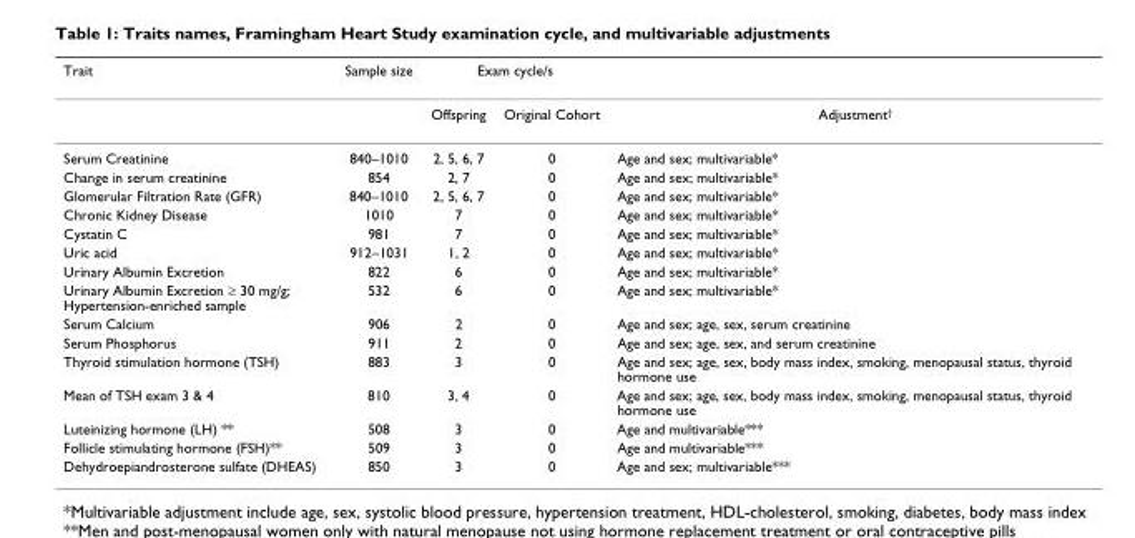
<table><thead><tr><td rowspan="2">Trait</td><td rowspan="2">Sample size</td><td colspan="2">Exam cycle/s</td><td rowspan="2">Adjustment<sup>†</sup></td></tr><tr><td>Offspring</td><td>Original Cohort</td></tr></thead><tbody><tr><td>Serum Creatinine</td><td>840–1010</td><td>2, 5, 6, 7</td><td>0</td><td>Age and sex; multivariable*</td></tr><tr><td>Change in serum creatinine</td><td>854</td><td>2, 7</td><td>0</td><td>Age and sex; multivariable*</td></tr><tr><td>Glomerular Filtration Rate (GFR)</td><td>840–1010</td><td>2, 5, 6, 7</td><td>0</td><td>Age and sex; multivariable*</td></tr><tr><td>Chronic Kidney Disease</td><td>1010</td><td>7</td><td>0</td><td>Age and sex; multivariable*</td></tr><tr><td>Cystatin C</td><td>981</td><td>7</td><td>0</td><td>Age and sex; multivariable*</td></tr><tr><td>Uric acid</td><td>912–1031</td><td>1, 2</td><td>0</td><td>Age and sex; multivariable*</td></tr><tr><td>Urinary Albumin Excretion</td><td>822</td><td>6</td><td>0</td><td>Age and sex; multivariable*</td></tr><tr><td>Urinary Albumin Excretion ≥ 30 mg/g; Hypertension-enriched sample</td><td>532</td><td>6</td><td>0</td><td>Age and sex; multivariable*</td></tr><tr><td>Serum Calcium</td><td>906</td><td>2</td><td>0</td><td>Age and sex; age, sex, serum creatinine</td></tr><tr><td>Serum Phosphorus</td><td>911</td><td>2</td><td>0</td><td>Age and sex; age, sex, and serum creatinine</td></tr><tr><td>Thyroid stimulation hormone (TSH)</td><td>883</td><td>3</td><td>0</td><td>Age and sex; age, sex, body mass index, smoking, menopausal status, thyroid hormone use</td></tr><tr><td>Mean of TSH exam 3 &amp; 4</td><td>810</td><td>3, 4</td><td>0</td><td>Age and sex; age, sex, body mass index, smoking, menopausal status, thyroid hormone use</td></tr><tr><td>Luteinizing hormone (LH) **</td><td>508</td><td>3</td><td>0</td><td>Age and multivariable***</td></tr><tr><td>Follicle stimulating hormone (FSH)**</td><td>509</td><td>3</td><td>0</td><td>Age and multivariable***</td></tr><tr><td>Dehydroepiandrosterone sulfate (DHEAS)</td><td>850</td><td>3</td><td>0</td><td>Age and sex; multivariable***</td></tr></tbody></table>